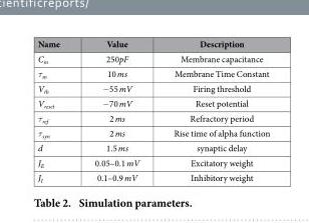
<table><thead><tr><td>Name</td><td>Value</td><td>Description</td></tr></thead><tbody><tr><td>C<sub>m</sub></td><td>250pF</td><td>Membrane capacitance</td></tr><tr><td>τ<sub>m</sub></td><td>10 ms</td><td>Membrane Time Constant</td></tr><tr><td>V<sub>th</sub></td><td>− 55 mV</td><td>Firing threshold</td></tr><tr><td>V<sub>reset</sub></td><td>− 70 mV</td><td>Reset potential</td></tr><tr><td>τ<sub>ref</sub></td><td>2 ms</td><td>Refractory period</td></tr><tr><td>τ<sub>syn</sub></td><td>2 ms</td><td>Rise time of alpha function</td></tr><tr><td>d</td><td>1.5 ms</td><td>synaptic delay</td></tr><tr><td>J<sub>E</sub></td><td>0.05–0.1 mV</td><td>Excitatory weight</td></tr><tr><td>J<sub>I</sub></td><td>0.1–0.9 mV</td><td>Inhibitory weight</td></tr></tbody></table>